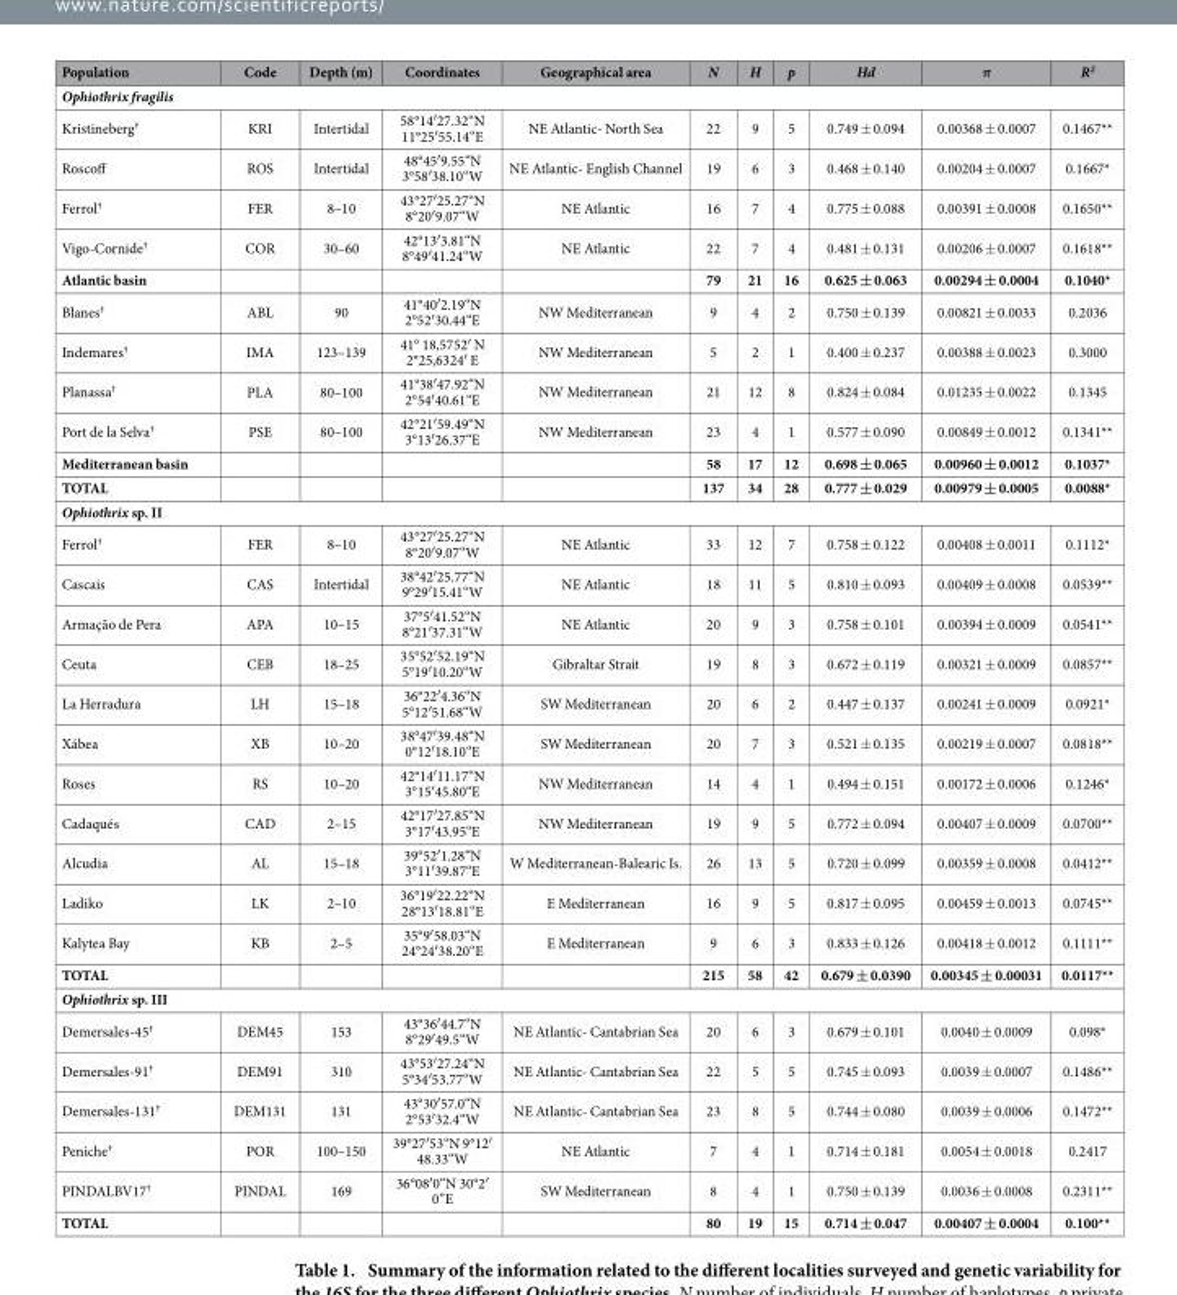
<table><thead><tr><td>Population</td><td>Code</td><td>Depth (m)</td><td>Coordinates</td><td>Geographical area</td><td>N</td><td>H</td><td>p</td><td>Hd</td><td>π</td><td>R<sup>2</sup></td></tr></thead><tbody><tr><td colspan="11">Ophiothrix fragilis</td></tr><tr><td>Kristineberg<sup>†</sup></td><td>KRI</td><td>Intertidal</td><td>58°14′ 27.32“N 11°25′ 55.14“E</td><td>NE Atlantic- North Sea</td><td>22</td><td>9</td><td>5</td><td>0.749 ± 0.094</td><td>0.00368 ± 0.0007</td><td>0.1467**</td></tr><tr><td>Roscoff</td><td>ROS</td><td>Intertidal</td><td>48°45′ 9.55“N 3°58′ 38.10“W</td><td>NE Atlantic- English Channel</td><td>19</td><td>6</td><td>3</td><td>0.468 ± 0.140</td><td>0.00204 ± 0.0007</td><td>0.1667*</td></tr><tr><td>Ferrol<sup>†</sup></td><td>FER</td><td>8–10</td><td>43°27′ 25.27“N 8°20′ 9.07“W</td><td>NE Atlantic</td><td>16</td><td>7</td><td>4</td><td>0.775 ± 0.088</td><td>0.00391 ± 0.0008</td><td>0.1650**</td></tr><tr><td>Vigo-Cornide<sup>†</sup></td><td>COR</td><td>30–60</td><td>42°13′ 3.81“N 8°49′ 41.24“W</td><td>NE Atlantic</td><td>22</td><td>7</td><td>4</td><td>0.481 ± 0.131</td><td>0.00206 ± 0.0007</td><td>0.1618**</td></tr><tr><td>Atlantic basin</td><td></td><td></td><td></td><td></td><td>79</td><td>21</td><td>16</td><td>0.625 ± 0.063</td><td>0.00294 ± 0.0004</td><td>0.1040*</td></tr><tr><td>Blanes<sup>†</sup></td><td>ABL</td><td>90</td><td>41°40′ 2.19“N 2°52′ 30.44“E</td><td>NW Mediterranean</td><td>9</td><td>4</td><td>2</td><td>0.750 ± 0.139</td><td>0.00821 ± 0.0033</td><td>0.2036</td></tr><tr><td>Indemares<sup>†</sup></td><td>IMA</td><td>123–139</td><td>41° 18,5752′ N 2°25,6324′ E</td><td>NW Mediterranean</td><td>5</td><td>2</td><td>1</td><td>0.400 ± 0.237</td><td>0.00388 ± 0.0023</td><td>0.3000</td></tr><tr><td>Planassa<sup>†</sup></td><td>PLA</td><td>80–100</td><td>41°38′ 47.92“N 2°54′ 40.61“E</td><td>NW Mediterranean</td><td>21</td><td>12</td><td>8</td><td>0.824 ± 0.084</td><td>0.01235 ± 0.0022</td><td>0.1345</td></tr><tr><td>Port de la Selva<sup>†</sup></td><td>PSE</td><td>80–100</td><td>42°21′ 59.49“N 3°13′ 26.37“E</td><td>NW Mediterranean</td><td>23</td><td>4</td><td>1</td><td>0.577 ± 0.090</td><td>0.00849 ± 0.0012</td><td>0.1341**</td></tr><tr><td>Mediterranean basin</td><td></td><td></td><td></td><td></td><td>58</td><td>17</td><td>12</td><td>0.698 ± 0.065</td><td>0.00960 ± 0.0012</td><td>0.1037*</td></tr><tr><td>TOTAL</td><td></td><td></td><td></td><td></td><td>137</td><td>34</td><td>28</td><td>0.777 ± 0.029</td><td>0.00979 ± 0.0005</td><td>0.0088*</td></tr><tr><td colspan="11">Ophiothrix sp. II</td></tr><tr><td>Ferrol<sup>†</sup></td><td>FER</td><td>8–10</td><td>43°27′ 25.27“N 8°20′ 9.07“W</td><td>NE Atlantic</td><td>33</td><td>12</td><td>7</td><td>0.758 ± 0.122</td><td>0.00408 ± 0.0011</td><td>0.1112*</td></tr><tr><td>Cascais</td><td>CAS</td><td>Intertidal</td><td>38°42′ 25.77“N 9°29′ 15.41“W</td><td>NE Atlantic</td><td>18</td><td>11</td><td>5</td><td>0.810 ± 0.093</td><td>0.00409 ± 0.0008</td><td>0.0539**</td></tr><tr><td>Armação de Pera</td><td>APA</td><td>10–15</td><td>37°5′ 41.52“N 8°21′ 37.31“W</td><td>NE Atlantic</td><td>20</td><td>9</td><td>3</td><td>0.758 ± 0.101</td><td>0.00394 ± 0.0009</td><td>0.0541**</td></tr><tr><td>Ceuta</td><td>CEB</td><td>18–25</td><td>35°52′ 52.19“N 5°19′ 10.20“W</td><td>Gibraltar Strait</td><td>19</td><td>8</td><td>3</td><td>0.672 ± 0.119</td><td>0.00321 ± 0.0009</td><td>0.0857**</td></tr><tr><td>La Herradura</td><td>LH</td><td>15–18</td><td>36°22′ 4.36“N 5°12′ 51.68“W</td><td>SW Mediterranean</td><td>20</td><td>6</td><td>2</td><td>0.447 ± 0.137</td><td>0.00241 ± 0.0009</td><td>0.0921*</td></tr><tr><td>Xábea</td><td>XB</td><td>10–20</td><td>38°47′ 39.48“N 0°12′ 18.10“E</td><td>SW Mediterranean</td><td>20</td><td>7</td><td>3</td><td>0.521 ± 0.135</td><td>0.00219 ± 0.0007</td><td>0.0818**</td></tr><tr><td>Roses</td><td>RS</td><td>10–20</td><td>42°14′ 11.17“N 3°15′ 45.80“E</td><td>NW Mediterranean</td><td>14</td><td>4</td><td>1</td><td>0.494 ± 0.151</td><td>0.00172 ± 0.0006</td><td>0.1246*</td></tr><tr><td>Cadaqués</td><td>CAD</td><td>2–15</td><td>42°17′ 27.85“N 3°17′ 43.95“E</td><td>NW Mediterranean</td><td>19</td><td>9</td><td>5</td><td>0.772 ± 0.094</td><td>0.00407 ± 0.0009</td><td>0.0700**</td></tr><tr><td>Alcudia</td><td>AL</td><td>15–18</td><td>39°52′ 1.28“N 3°11′ 39.87“E</td><td>W Mediterranean-Balearic Is.</td><td>26</td><td>13</td><td>5</td><td>0.720 ± 0.099</td><td>0.00359 ± 0.0008</td><td>0.0412**</td></tr><tr><td>Ladiko</td><td>LK</td><td>2–10</td><td>36°19′ 22.22“N 28°13′ 18.81“E</td><td>E Mediterranean</td><td>16</td><td>9</td><td>5</td><td>0.817 ± 0.095</td><td>0.00459 ± 0.0013</td><td>0.0745**</td></tr><tr><td>Kalytea Bay</td><td>KB</td><td>2–5</td><td>35°9′ 58.03“N 24°24′ 38.20“E</td><td>E Mediterranean</td><td>9</td><td>6</td><td>3</td><td>0.833 ± 0.126</td><td>0.00418 ± 0.0012</td><td>0.1111**</td></tr><tr><td>TOTAL</td><td></td><td></td><td></td><td></td><td>215</td><td>58</td><td>42</td><td>0.679 ± 0.0390</td><td>0.00345 ± 0.00031</td><td>0.0117**</td></tr><tr><td colspan="11">Ophiothrix sp. III</td></tr><tr><td>Demersales-45<sup>†</sup></td><td>DEM45</td><td>153</td><td>43°36′ 44.7“N 8°29′ 49.5“W</td><td>NE Atlantic- Cantabrian Sea</td><td>20</td><td>6</td><td>3</td><td>0.679 ± 0.101</td><td>0.0040 ± 0.0009</td><td>0.098*</td></tr><tr><td>Demersales-91<sup>†</sup></td><td>DEM91</td><td>310</td><td>43°53′ 27.24“N 5°34′ 53.77“W</td><td>NE Atlantic- Cantabrian Sea</td><td>22</td><td>5</td><td>5</td><td>0.745 ± 0.093</td><td>0.0039 ± 0.0007</td><td>0.1486**</td></tr><tr><td>Demersales-131<sup>†</sup></td><td>DEM131</td><td>131</td><td>43°30′ 57.0“N 2°53′ 32.4“W</td><td>NE Atlantic- Cantabrian Sea</td><td>23</td><td>8</td><td>5</td><td>0.744 ± 0.080</td><td>0.0039 ± 0.0006</td><td>0.1472**</td></tr><tr><td>Peniche<sup>†</sup></td><td>POR</td><td>100–150</td><td>39°27′ 53“N 9°12′ 48.33“W</td><td>NE Atlantic</td><td>7</td><td>4</td><td>1</td><td>0.714 ± 0.181</td><td>0.0054 ± 0.0018</td><td>0.2417</td></tr><tr><td>PINDALBV17<sup>†</sup></td><td>PINDAL</td><td>169</td><td>36°08′ 0“N 30°2′ 0”E</td><td>SW Mediterranean</td><td>8</td><td>4</td><td>1</td><td>0.750 ± 0.139</td><td>0.0036 ± 0.0008</td><td>0.2311**</td></tr><tr><td>TOTAL</td><td></td><td></td><td></td><td></td><td>80</td><td>19</td><td>15</td><td>0.714 ± 0.047</td><td>0.00407 ± 0.0004</td><td>0.100**</td></tr></tbody></table>